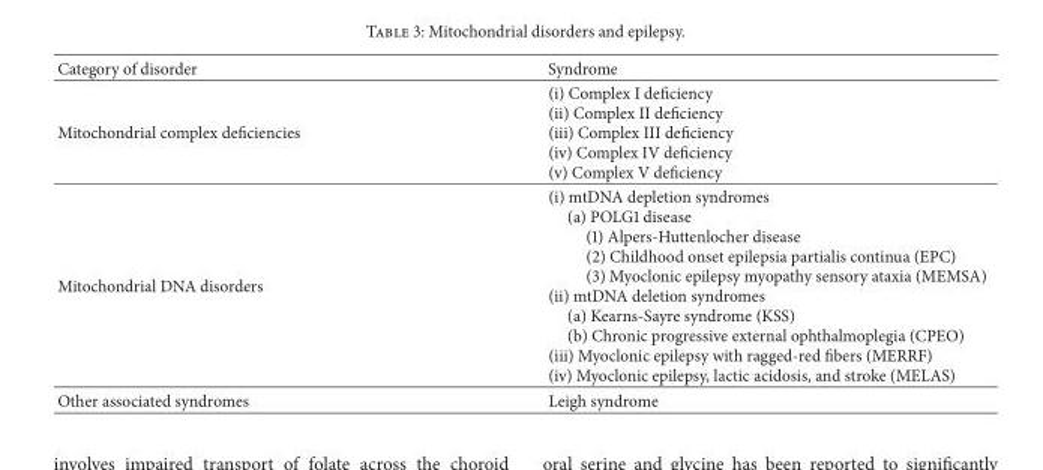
<table><thead><tr><td>Category of disorder</td><td>Syndrome</td></tr></thead><tbody><tr><td>Mitochondrial complex deficiencies</td><td>(i) Complex I deficiency (ii) Complex II deficiency (iii) Complex III deficiency (iv) Complex IV deficiency (v) Complex V deficiency</td></tr><tr><td>Mitochondrial DNA disorders</td><td>(i) mtDNA depletion syndromes (a) POLG1 disease (1) Alpers-Huttenlocher disease (2) Childhood onset epilepsia partialis continua (EPC) (3) Myoclonic epilepsy myopathy sensory ataxia (MEMSA) (ii) mtDNA deletion syndromes (a) Kearns-Sayre syndrome (KSS) (b) Chronic progressive external ophthalmoplegia (CPEO) (iii) Myoclonic epilepsy with ragged-red fibers (MERRF) (iv) Myoclonic epilepsy, lactic acidosis, and stroke (MELAS)</td></tr><tr><td>Other associated syndromes</td><td>Leigh syndrome</td></tr></tbody></table>